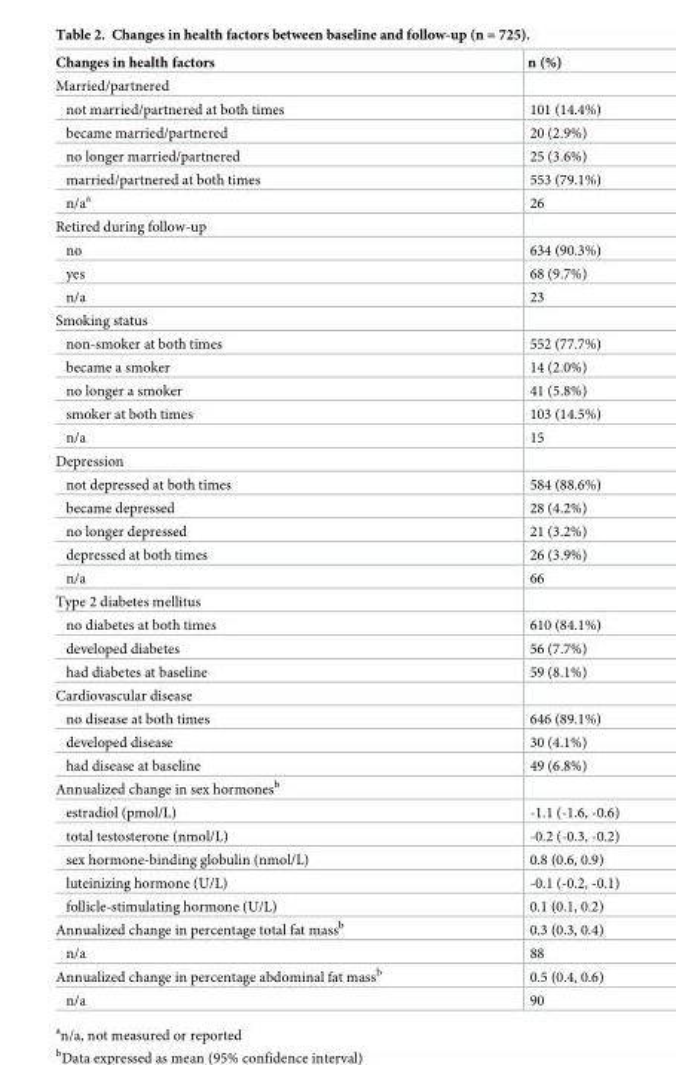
<table><thead><tr><td>Changes in health factors</td><td>n (%)</td></tr></thead><tbody><tr><td colspan="2">Married/partnered</td></tr><tr><td>not married/partnered at both times</td><td>101 (14.4%)</td></tr><tr><td>became married/partnered</td><td>20 (2.9%)</td></tr><tr><td>no longer married/partnered</td><td>25 (3.6%)</td></tr><tr><td>married/partnered at both times</td><td>553 (79.1%)</td></tr><tr><td>n/a<sup>a</sup></td><td>26</td></tr><tr><td colspan="2">Retired during follow-up</td></tr><tr><td>no</td><td>634 (90.3%)</td></tr><tr><td>yes</td><td>68 (9.7%)</td></tr><tr><td>n/a</td><td>23</td></tr><tr><td colspan="2">Smoking status</td></tr><tr><td>non-smoker at both times</td><td>552 (77.7%)</td></tr><tr><td>became a smoker</td><td>14 (2.0%)</td></tr><tr><td>no longer a smoker</td><td>41 (5.8%)</td></tr><tr><td>smoker at both times</td><td>103 (14.5%)</td></tr><tr><td>n/a</td><td>15</td></tr><tr><td colspan="2">Depression</td></tr><tr><td>not depressed at both times</td><td>584 (88.6%)</td></tr><tr><td>became depressed</td><td>28 (4.2%)</td></tr><tr><td>no longer depressed</td><td>21 (3.2%)</td></tr><tr><td>depressed at both times</td><td>26 (3.9%)</td></tr><tr><td>n/a</td><td>66</td></tr><tr><td colspan="2">Type 2 diabetes mellitus</td></tr><tr><td>no diabetes at both times</td><td>610 (84.1%)</td></tr><tr><td>developed diabetes</td><td>56 (7.7%)</td></tr><tr><td>had diabetes at baseline</td><td>59 (8.1%)</td></tr><tr><td colspan="2">Cardiovascular disease</td></tr><tr><td>no disease at both times</td><td>646 (89.1%)</td></tr><tr><td>developed disease</td><td>30 (4.1%)</td></tr><tr><td>had disease at baseline</td><td>49 (6.8%)</td></tr><tr><td colspan="2">Annualized change in sex hormones<sup>b</sup></td></tr><tr><td>estradiol (pmol/L)</td><td>-1.1 (-1.6, -0.6)</td></tr><tr><td>total testosterone (nmol/L)</td><td>-0.2 (-0.3, -0.2)</td></tr><tr><td>sex hormone-binding globulin (nmol/L)</td><td>0.8 (0.6, 0.9)</td></tr><tr><td>luteinizing hormone (U/L)</td><td>-0.1 (-0.2, -0.1)</td></tr><tr><td>follicle-stimulating hormone (U/L)</td><td>0.1 (0.1, 0.2)</td></tr><tr><td>Annualized change in percentage total fat mass<sup>b</sup></td><td>0.3 (0.3, 0.4)</td></tr><tr><td>n/a</td><td>88</td></tr><tr><td>Annualized change in percentage abdominal fat mass<sup>b</sup></td><td>0.5 (0.4, 0.6)</td></tr><tr><td>n/a</td><td>90</td></tr></tbody></table>